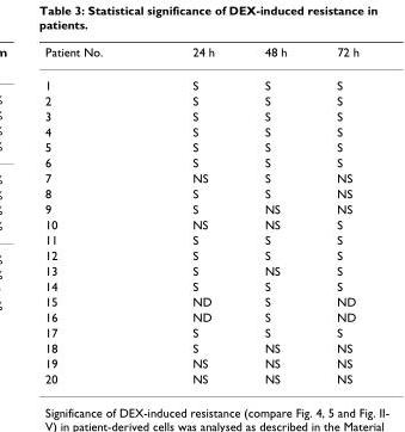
<table><thead><tr><td>Patient No.</td><td>24 h</td><td>48 h</td><td>72 h</td></tr></thead><tbody><tr><td>1</td><td>S</td><td>S</td><td>S</td></tr><tr><td>2</td><td>S</td><td>S</td><td>S</td></tr><tr><td>3</td><td>S</td><td>S</td><td>S</td></tr><tr><td>4</td><td>S</td><td>S</td><td>S</td></tr><tr><td>5</td><td>S</td><td>S</td><td>S</td></tr><tr><td>6</td><td>S</td><td>S</td><td>S</td></tr><tr><td>7</td><td>NS</td><td>S</td><td>NS</td></tr><tr><td>8</td><td>S</td><td>S</td><td>NS</td></tr><tr><td>9</td><td>S</td><td>NS</td><td>NS</td></tr><tr><td>10</td><td>NS</td><td>NS</td><td>S</td></tr><tr><td>11</td><td>S</td><td>S</td><td>S</td></tr><tr><td>12</td><td>S</td><td>S</td><td>S</td></tr><tr><td>13</td><td>S</td><td>NS</td><td>S</td></tr><tr><td>14</td><td>S</td><td>S</td><td>S</td></tr><tr><td>15</td><td>ND</td><td>S</td><td>ND</td></tr><tr><td>16</td><td>ND</td><td>S</td><td>ND</td></tr><tr><td>17</td><td>S</td><td>S</td><td>S</td></tr><tr><td>18</td><td>S</td><td>NS</td><td>NS</td></tr><tr><td>19</td><td>NS</td><td>NS</td><td>NS</td></tr><tr><td>20</td><td>NS</td><td>NS</td><td>NS</td></tr></tbody></table>